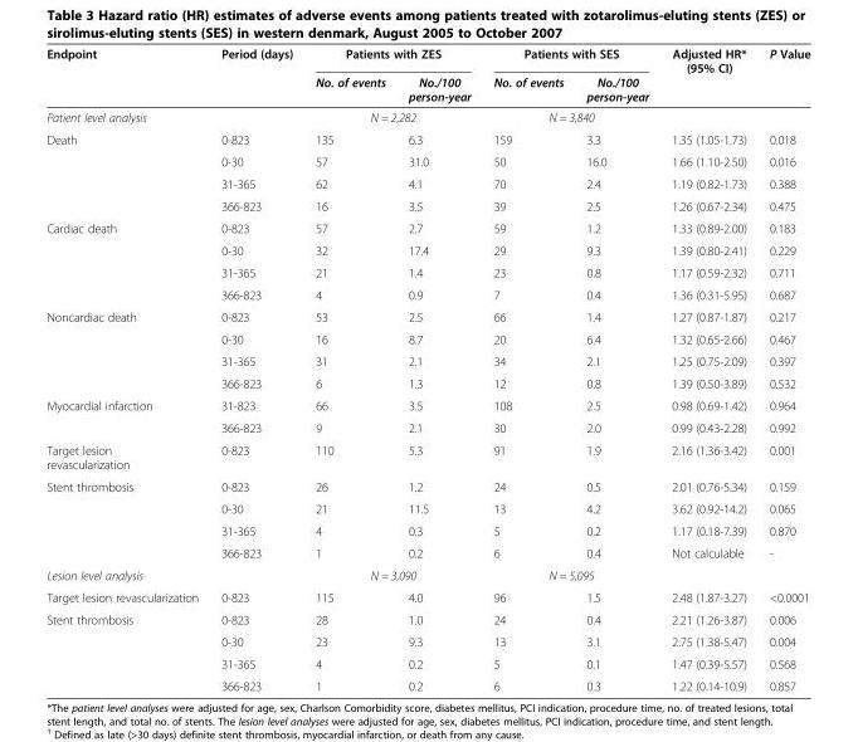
<table><thead><tr><td rowspan="2">Endpoint</td><td rowspan="2">Period (days)</td><td colspan="2">Patients with ZES</td><td colspan="2">Patients with SES</td><td rowspan="2">Adjusted HR* (95% CI)</td><td rowspan="2">P Value</td></tr><tr><td>No. of events</td><td>No./100 person-year</td><td>No. of events</td><td>No./100 person-year</td></tr></thead><tbody><tr><td>Patient level analysis</td><td></td><td colspan="2">N = 2,282</td><td colspan="2">N = 3,840</td><td></td><td></td></tr><tr><td rowspan="4">Death</td><td>0-823</td><td>135</td><td>6.3</td><td>159</td><td>3.3</td><td>1.35 (1.05-1.73)</td><td>0.018</td></tr><tr><td>0-30</td><td>57</td><td>31.0</td><td>50</td><td>16.0</td><td>1.66 (1.10-2.50)</td><td>0.016</td></tr><tr><td>31-365</td><td>62</td><td>4.1</td><td>70</td><td>2.4</td><td>1.19 (0.82-1.73)</td><td>0.388</td></tr><tr><td>366-823</td><td>16</td><td>3.5</td><td>39</td><td>2.5</td><td>1.26 (0.67-2.34)</td><td>0.475</td></tr><tr><td rowspan="4">Cardiac death</td><td>0-823</td><td>57</td><td>2.7</td><td>59</td><td>1.2</td><td>1.33 (0.89-2.00)</td><td>0.183</td></tr><tr><td>0-30</td><td>32</td><td>17.4</td><td>29</td><td>9.3</td><td>1.39 (0.80-2.41)</td><td>0.229</td></tr><tr><td>31-365</td><td>21</td><td>1.4</td><td>23</td><td>0.8</td><td>1.17 (0.59-2.32)</td><td>0.711</td></tr><tr><td>366-823</td><td>4</td><td>0.9</td><td>7</td><td>0.4</td><td>1.36 (0.31-5.95)</td><td>0.687</td></tr><tr><td rowspan="4">Noncardiac death</td><td>0-823</td><td>53</td><td>2.5</td><td>66</td><td>1.4</td><td>1.27 (0.87-1.87)</td><td>0.217</td></tr><tr><td>0-30</td><td>16</td><td>8.7</td><td>20</td><td>6.4</td><td>1.32 (0.65-2.66)</td><td>0.467</td></tr><tr><td>31-365</td><td>31</td><td>2.1</td><td>34</td><td>2.1</td><td>1.25 (0.75-2.09)</td><td>0.397</td></tr><tr><td>366-823</td><td>6</td><td>1.3</td><td>12</td><td>0.8</td><td>1.39 (0.50-3.89)</td><td>0.532</td></tr><tr><td rowspan="2">Myocardial infarction</td><td>31-823</td><td>66</td><td>3.5</td><td>108</td><td>2.5</td><td>0.98 (0.69-1.42)</td><td>0.964</td></tr><tr><td>366-823</td><td>9</td><td>2.1</td><td>30</td><td>2.0</td><td>0.99 (0.43-2.28)</td><td>0.992</td></tr><tr><td>Target lesion revascularization</td><td>0-823</td><td>110</td><td>5.3</td><td>91</td><td>1.9</td><td>2.16 (1.36-3.42)</td><td>0.001</td></tr><tr><td rowspan="4">Stent thrombosis</td><td>0-823</td><td>26</td><td>1.2</td><td>24</td><td>0.5</td><td>2.01 (0.76-5.34)</td><td>0.159</td></tr><tr><td>0-30</td><td>21</td><td>11.5</td><td>13</td><td>4.2</td><td>3.62 (0.92-14.2)</td><td>0.065</td></tr><tr><td>31-365</td><td>4</td><td>0.3</td><td>5</td><td>0.2</td><td>1.17 (0.18-7.39)</td><td>0.870</td></tr><tr><td>366-823</td><td>1</td><td>0.2</td><td>6</td><td>0.4</td><td>Not calculable</td><td>-</td></tr><tr><td>Lesion level analysis</td><td></td><td colspan="2">N = 3,090</td><td colspan="2">N = 5,095</td><td></td><td></td></tr><tr><td>Target lesion revascularization</td><td>0-823</td><td>115</td><td>4.0</td><td>96</td><td>1.5</td><td>2.48 (1.87-3.27)</td><td>&lt;0.0001</td></tr><tr><td rowspan="4">Stent thrombosis</td><td>0-823</td><td>28</td><td>1.0</td><td>24</td><td>0.4</td><td>2.21 (1.26-3.87)</td><td>0.006</td></tr><tr><td>0-30</td><td>23</td><td>9.3</td><td>13</td><td>3.1</td><td>2.75 (1.38-5.47)</td><td>0.004</td></tr><tr><td>31-365</td><td>4</td><td>0.2</td><td>5</td><td>0.1</td><td>1.47 (0.39-5.57)</td><td>0.568</td></tr><tr><td>366-823</td><td>1</td><td>0.2</td><td>6</td><td>0.3</td><td>1.22 (0.14-10.9)</td><td>0.857</td></tr></tbody></table>